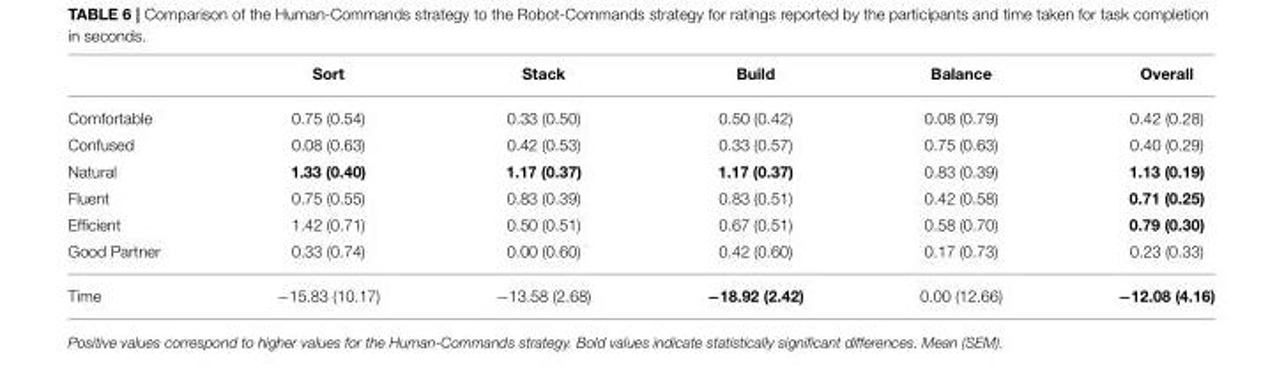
<table><thead><tr><td></td><td>Sort</td><td>Stack</td><td>Build</td><td>Balance</td><td>Overall</td></tr></thead><tbody><tr><td>Comfortable</td><td>0.75 (0.54)</td><td>0.33 (0.50)</td><td>0.50 (0.42)</td><td>0.08 (0.79)</td><td>0.42 (0.28)</td></tr><tr><td>Confused</td><td>0.08 (0.63)</td><td>0.42 (0.53)</td><td>0.33 (0.57)</td><td>0.75 (0.63)</td><td>0.40 (0.29)</td></tr><tr><td>Natural</td><td>1.33 (0.40)</td><td>1.17 (0.37)</td><td>1.17 (0.37)</td><td>0.83 (0.39)</td><td>1.13 (0.19)</td></tr><tr><td>Fluent</td><td>0.75 (0.55)</td><td>0.83 (0.39)</td><td>0.83 (0.51)</td><td>0.42 (0.58)</td><td>0.71 (0.25)</td></tr><tr><td>Efficient</td><td>1.42 (0.71)</td><td>0.50 (0.51)</td><td>0.67 (0.51)</td><td>0.58 (0.70)</td><td>0.79 (0.30)</td></tr><tr><td>Good Partner</td><td>0.33 (0.74)</td><td>0.00 (0.60)</td><td>0.42 (0.60)</td><td>0.17 (0.73)</td><td>0.23 (0.33)</td></tr><tr><td>Time</td><td>−15.83 (10.17)</td><td>−13.58 (2.68)</td><td>−18.92 (2.42)</td><td>0.00 (12.66)</td><td>−12.08 (4.16)</td></tr></tbody></table>